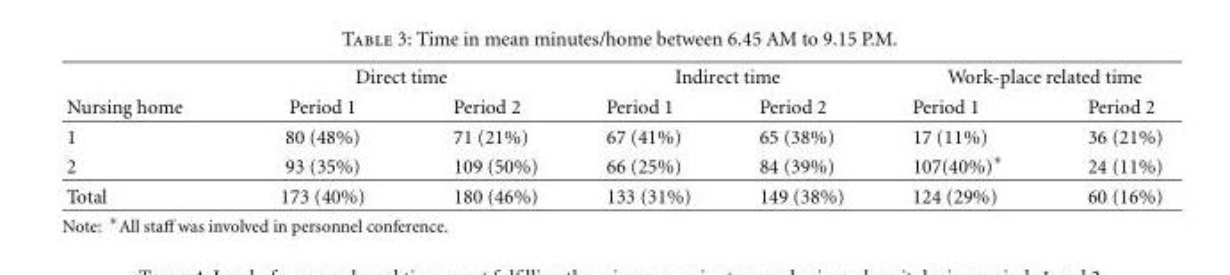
<table><thead><tr><td rowspan="2">Nursing home</td><td colspan="2">Direct time</td><td colspan="2">Indirect time</td><td colspan="2">Work-place related time</td></tr><tr><td>Period 1</td><td>Period 2</td><td>Period 1</td><td>Period 2</td><td>Period 1</td><td>Period 2</td></tr></thead><tbody><tr><td>1</td><td>80 (48%)</td><td>71 (21%)</td><td>67 (41%)</td><td>65 (38%)</td><td>17 (11%)</td><td>36 (21%)</td></tr><tr><td>2</td><td>93 (35%)</td><td>109 (50%)</td><td>66 (25%)</td><td>84 (39%)</td><td>107(40%)∗</td><td>24 (11%)</td></tr><tr><td>Total</td><td>173 (40%)</td><td>180 (46%)</td><td>133 (31%)</td><td>149 (38%)</td><td>124 (29%)</td><td>60 (16%)</td></tr></tbody></table>